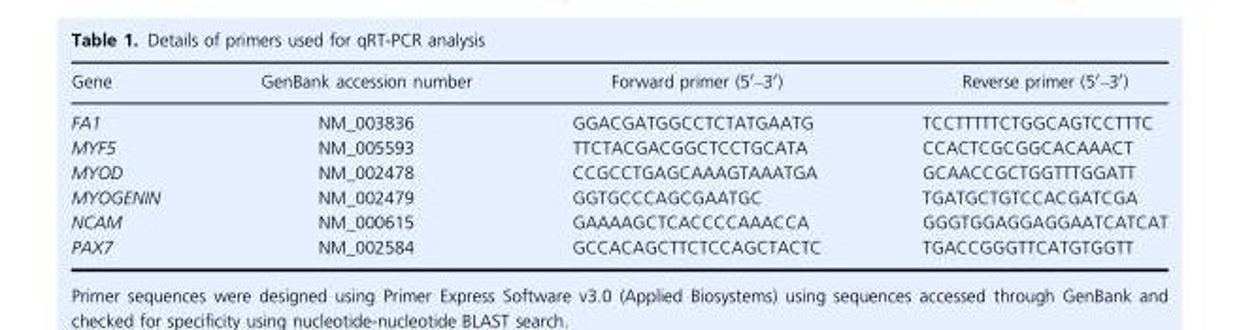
<table><thead><tr><td>Gene</td><td>GenBank accession number</td><td>Forward primer (5′–3′)</td><td>Reverse primer (5′–3′)</td></tr></thead><tbody><tr><td>FA1</td><td>NM_003836</td><td>GGACGATGGCCTCTATGAATG</td><td>TCCTTTTTCTGGCAGTCCTTTC</td></tr><tr><td>MYF5</td><td>NM_005593</td><td>TTCTACGACGGCTCCTGCATA</td><td>CCACTCGCGGCACAAACT</td></tr><tr><td>MYOD</td><td>NM_002478</td><td>CCGCCTGAGCAAAGTAAATGA</td><td>GCAACCGCTGGTTTGGATT</td></tr><tr><td>MYOGENIN</td><td>NM_002479</td><td>GGTGCCCAGCGAATGC</td><td>TGATGCTGTCCACGATCGA</td></tr><tr><td>NCAM</td><td>NM_000615</td><td>GAAAAGCTCACCCCAAACCA</td><td>GGGTGGAGGAGGAATCATCAT</td></tr><tr><td>PAX7</td><td>NM_002584</td><td>GCCACAGCTTCTCCAGCTACTC</td><td>TGACCGGGTTCATGTGGTT</td></tr></tbody></table>